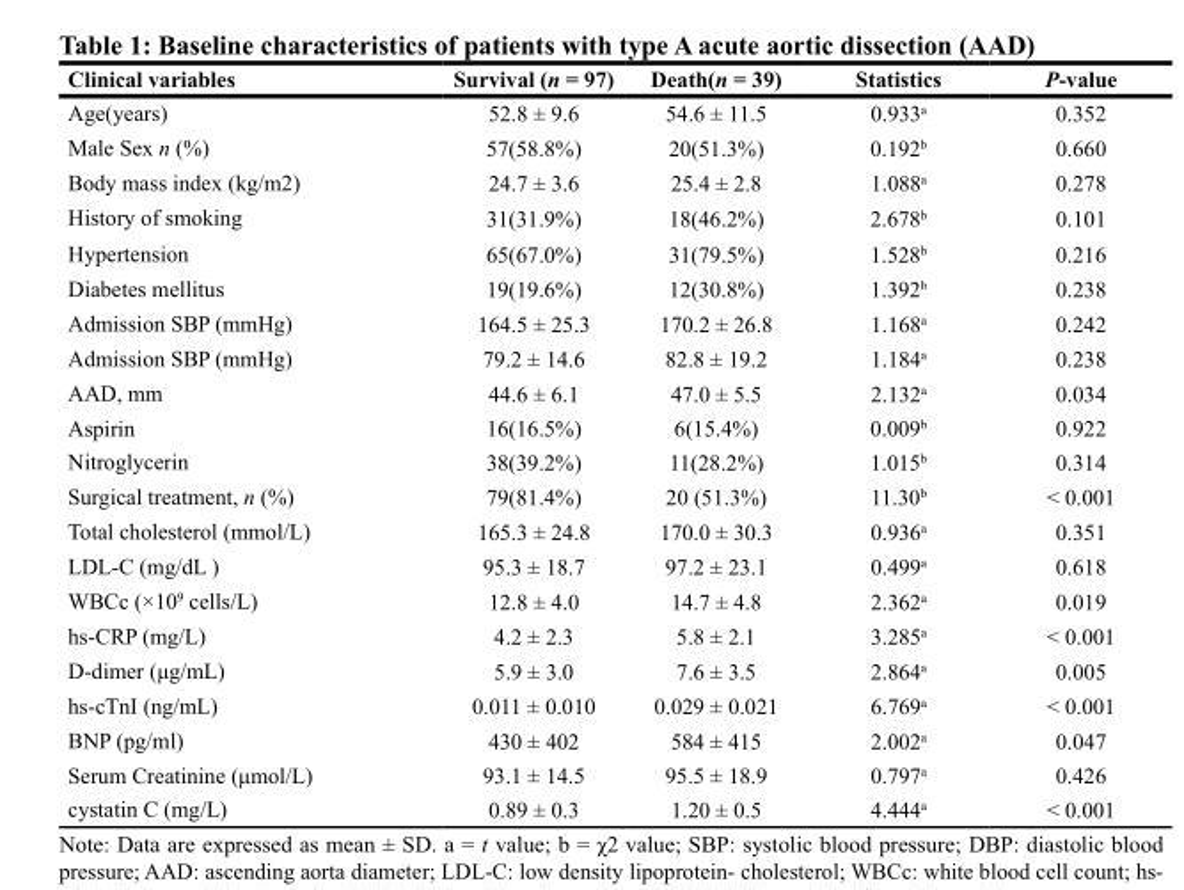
<table><thead><tr><td>Clinical variables</td><td>Survival (n = 97)</td><td>Death(n = 39)</td><td>Statistics</td><td>P-value</td></tr></thead><tbody><tr><td>Age(years)</td><td>52.8 ± 9.6</td><td>54.6 ± 11.5</td><td>0.933<sup>a</sup></td><td>0.352</td></tr><tr><td>Male Sex n (%)</td><td>57(58.8%)</td><td>20(51.3%)</td><td>0.192<sup>b</sup></td><td>0.660</td></tr><tr><td>Body mass index (kg/m2)</td><td>24.7 ± 3.6</td><td>25.4 ± 2.8</td><td>1.088<sup>a</sup></td><td>0.278</td></tr><tr><td>History of smoking</td><td>31(31.9%)</td><td>18(46.2%)</td><td>2.678<sup>b</sup></td><td>0.101</td></tr><tr><td>Hypertension</td><td>65(67.0%)</td><td>31(79.5%)</td><td>1.528<sup>b</sup></td><td>0.216</td></tr><tr><td>Diabetes mellitus</td><td>19(19.6%)</td><td>12(30.8%)</td><td>1.392<sup>b</sup></td><td>0.238</td></tr><tr><td>Admission SBP (mmHg)</td><td>164.5 ± 25.3</td><td>170.2 ± 26.8</td><td>1.168<sup>a</sup></td><td>0.242</td></tr><tr><td>Admission SBP (mmHg)</td><td>79.2 ± 14.6</td><td>82.8 ± 19.2</td><td>1.184<sup>a</sup></td><td>0.238</td></tr><tr><td>AAD, mm</td><td>44.6 ± 6.1</td><td>47.0 ± 5.5</td><td>2.132<sup>a</sup></td><td>0.034</td></tr><tr><td>Aspirin</td><td>16(16.5%)</td><td>6(15.4%)</td><td>0.009<sup>b</sup></td><td>0.922</td></tr><tr><td>Nitroglycerin</td><td>38(39.2%)</td><td>11(28.2%)</td><td>1.015<sup>b</sup></td><td>0.314</td></tr><tr><td>Surgical treatment, n (%)</td><td>79(81.4%)</td><td>20 (51.3%)</td><td>11.30<sup>b</sup></td><td>&lt; 0.001</td></tr><tr><td>Total cholesterol (mmol/L)</td><td>165.3 ± 24.8</td><td>170.0 ± 30.3</td><td>0.936<sup>a</sup></td><td>0.351</td></tr><tr><td>LDL-C (mg/dL )</td><td>95.3 ± 18.7</td><td>97.2 ± 23.1</td><td>0.499<sup>a</sup></td><td>0.618</td></tr><tr><td>WBCc (×10<sup>9</sup> cells/L)</td><td>12.8 ± 4.0</td><td>14.7 ± 4.8</td><td>2.362<sup>a</sup></td><td>0.019</td></tr><tr><td>hs-CRP (mg/L)</td><td>4.2 ± 2.3</td><td>5.8 ± 2.1</td><td>3.285<sup>a</sup></td><td>&lt; 0.001</td></tr><tr><td>D-dimer (μg/mL)</td><td>5.9 ± 3.0</td><td>7.6 ± 3.5</td><td>2.864<sup>a</sup></td><td>0.005</td></tr><tr><td>hs-cTnI (ng/mL)</td><td>0.011 ± 0.010</td><td>0.029 ± 0.021</td><td>6.769<sup>a</sup></td><td>&lt; 0.001</td></tr><tr><td>BNP (pg/ml)</td><td>430 ± 402</td><td>584 ± 415</td><td>2.002<sup>a</sup></td><td>0.047</td></tr><tr><td>Serum Creatinine (μmol/L)</td><td>93.1 ± 14.5</td><td>95.5 ± 18.9</td><td>0.797<sup>a</sup></td><td>0.426</td></tr><tr><td>cystatin C (mg/L)</td><td>0.89 ± 0.3</td><td>1.20 ± 0.5</td><td>4.444<sup>a</sup></td><td>&lt; 0.001</td></tr></tbody></table>